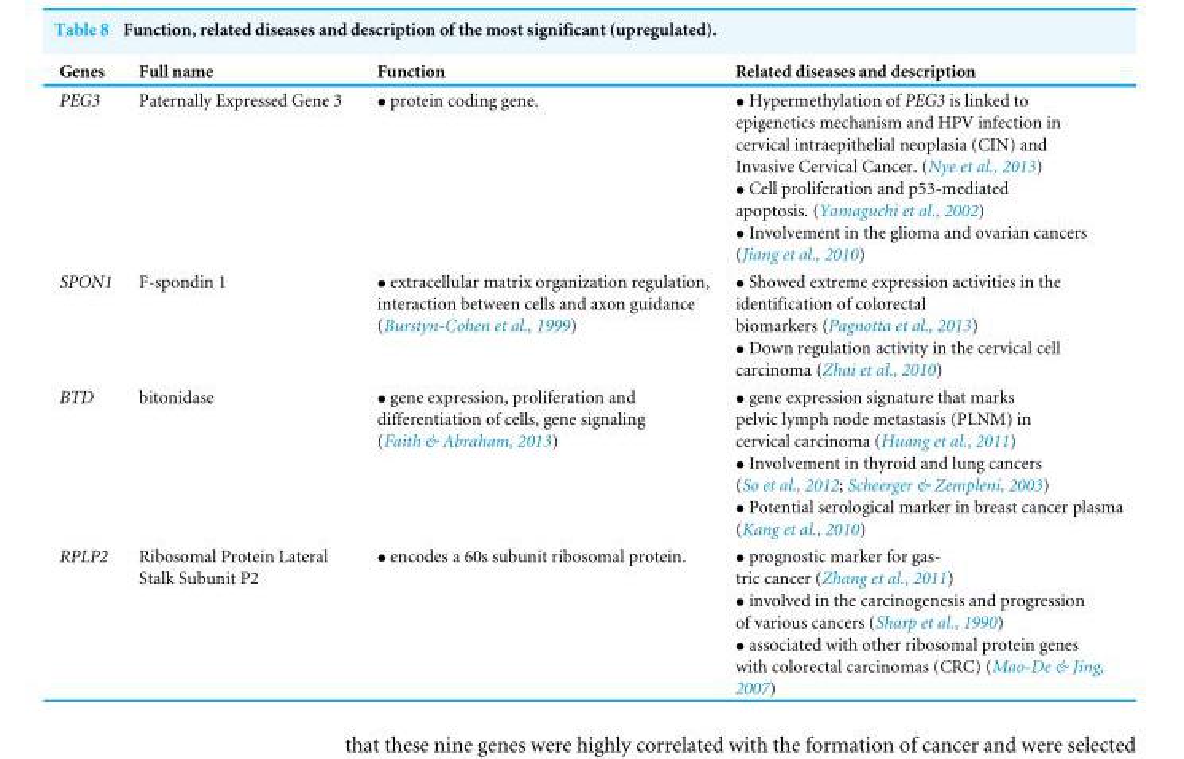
<table><thead><tr><td>Genes</td><td>Full name</td><td>Function</td><td>Related diseases and description</td></tr></thead><tbody><tr><td>PEG3</td><td>Paternally Expressed Gene 3</td><td>• protein coding gene.</td><td>• Hypermethylation of PEG3 is linked to epigenetics mechanism and HPV infection in cervical intraepithelial neoplasia (CIN) and Invasive Cervical Cancer. (Nye et al., 2013) • Cell proliferation and p53-mediated apoptosis. (Yamaguchi et al., 2002) • Involvement in the glioma and ovarian cancers (Jiang et al., 2010)</td></tr><tr><td>SPON1</td><td>F-spondin 1</td><td>• extracellular matrix organization regulation, interaction between cells and axon guidance (Burstyn-Cohen et al., 1999)</td><td>• Showed extreme expression activities in the identification of colorectal biomarkers (Pagnotta et al., 2013) • Down regulation activity in the cervical cell carcinoma (Zhai et al., 2010)</td></tr><tr><td>BTD</td><td>bitonidase</td><td>• gene expression, proliferation and differentiation of cells, gene signaling (Faith &amp; Abraham, 2013)</td><td>• gene expression signature that marks pelvic lymph node metastasis (PLNM) in cervical carcinoma (Huang et al., 2011) • Involvement in thyroid and lung cancers (So et al., 2012; Scheerger &amp; Zempleni, 2003) • Potential serological marker in breast cancer plasma (Kang et al., 2010)</td></tr><tr><td>RPLP2</td><td>Ribosomal Protein Lateral Stalk Subunit P2</td><td>• encodes a 60s subunit ribosomal protein.</td><td>• prognostic marker for gas- tric cancer (Zhang et al., 2011) • involved in the carcinogenesis and progression of various cancers (Sharp et al., 1990) • associated with other ribosomal protein genes with colorectal carcinomas (CRC) (Mao-De &amp; Jing, 2007)</td></tr></tbody></table>